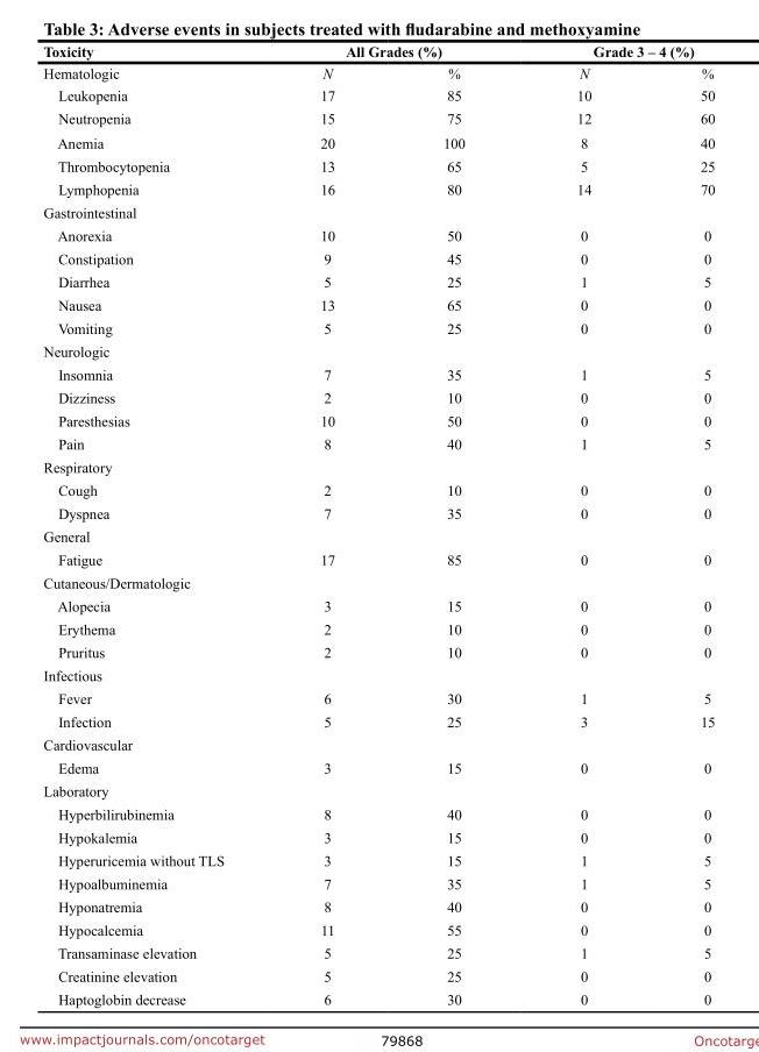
<table><thead><tr><td rowspan="2">Toxicity Hematologic</td><td colspan="2">All Grades (%)</td><td colspan="2">Grade 3 – 4 (%)</td></tr><tr><td>N</td><td>%</td><td>N</td><td>%</td></tr></thead><tbody><tr><td>Leukopenia</td><td>17</td><td>85</td><td>10</td><td>50</td></tr><tr><td>Neutropenia</td><td>15</td><td>75</td><td>12</td><td>60</td></tr><tr><td>Anemia</td><td>20</td><td>100</td><td>8</td><td>40</td></tr><tr><td>Thrombocytopenia</td><td>13</td><td>65</td><td>5</td><td>25</td></tr><tr><td>Lymphopenia</td><td>16</td><td>80</td><td>14</td><td>70</td></tr><tr><td colspan="5">Gastrointestinal</td></tr><tr><td>Anorexia</td><td>10</td><td>50</td><td>0</td><td>0</td></tr><tr><td>Constipation</td><td>9</td><td>45</td><td>0</td><td>0</td></tr><tr><td>Diarrhea</td><td>5</td><td>25</td><td>1</td><td>5</td></tr><tr><td>Nausea</td><td>13</td><td>65</td><td>0</td><td>0</td></tr><tr><td>Vomiting</td><td>5</td><td>25</td><td>0</td><td>0</td></tr><tr><td colspan="5">Neurologic</td></tr><tr><td>Insomnia</td><td>7</td><td>35</td><td>1</td><td>5</td></tr><tr><td>Dizziness</td><td>2</td><td>10</td><td>0</td><td>0</td></tr><tr><td>Paresthesias</td><td>10</td><td>50</td><td>0</td><td>0</td></tr><tr><td>Pain</td><td>8</td><td>40</td><td>1</td><td>5</td></tr><tr><td colspan="5">Respiratory</td></tr><tr><td>Cough</td><td>2</td><td>10</td><td>0</td><td>0</td></tr><tr><td>Dyspnea</td><td>7</td><td>35</td><td>0</td><td>0</td></tr><tr><td colspan="5">General</td></tr><tr><td>Fatigue</td><td>17</td><td>85</td><td>0</td><td>0</td></tr><tr><td colspan="5">Cutaneous/Dermatologic</td></tr><tr><td>Alopecia</td><td>3</td><td>15</td><td>0</td><td>0</td></tr><tr><td>Erythema</td><td>2</td><td>10</td><td>0</td><td>0</td></tr><tr><td>Pruritus</td><td>2</td><td>10</td><td>0</td><td>0</td></tr><tr><td colspan="5">Infectious</td></tr><tr><td>Fever</td><td>6</td><td>30</td><td>1</td><td>5</td></tr><tr><td>Infection</td><td>5</td><td>25</td><td>3</td><td>15</td></tr><tr><td colspan="5">Cardiovascular</td></tr><tr><td>Edema</td><td>3</td><td>15</td><td>0</td><td>0</td></tr><tr><td colspan="5">Laboratory</td></tr><tr><td>Hyperbilirubinemia</td><td>8</td><td>40</td><td>0</td><td>0</td></tr><tr><td>Hypokalemia</td><td>3</td><td>15</td><td>0</td><td>0</td></tr><tr><td>Hyperuricemia without TLS</td><td>3</td><td>15</td><td>1</td><td>5</td></tr><tr><td>Hypoalbuminemia</td><td>7</td><td>35</td><td>1</td><td>5</td></tr><tr><td>Hyponatremia</td><td>8</td><td>40</td><td>0</td><td>0</td></tr><tr><td>Hypocalcemia</td><td>11</td><td>55</td><td>0</td><td>0</td></tr><tr><td>Transaminase elevation</td><td>5</td><td>25</td><td>1</td><td>5</td></tr><tr><td>Creatinine elevation</td><td>5</td><td>25</td><td>0</td><td>0</td></tr><tr><td>Haptoglobin decrease</td><td>6</td><td>30</td><td>0</td><td>0</td></tr></tbody></table>